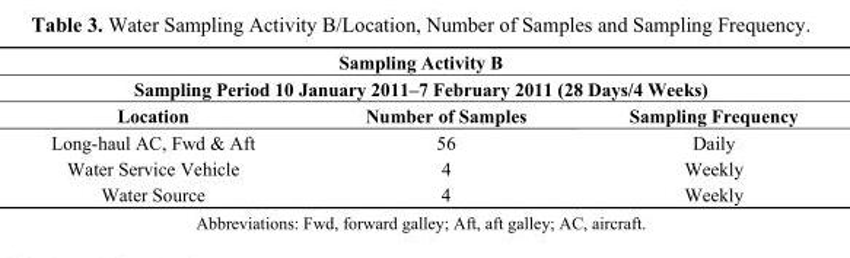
<table><thead><tr><td rowspan="2" colspan="3">Sampling Activity B Sampling Period 10 January 2011–7 February 2011 (28 Days/4 Weeks)</td></tr><tr></tr><tr><td>Location</td><td>Number of Samples</td><td>Sampling Frequency</td></tr></thead><tbody><tr><td>Long-haul AC, Fwd &amp; Aft</td><td>56</td><td>Daily</td></tr><tr><td>Water Service Vehicle</td><td>4</td><td>Weekly</td></tr><tr><td>Water Source</td><td>4</td><td>Weekly</td></tr></tbody></table>